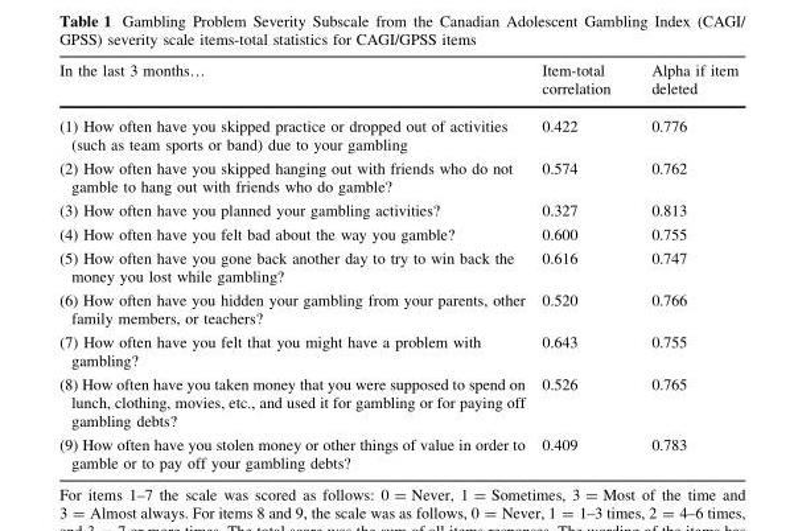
<table><thead><tr><td>In the last 3 months…</td><td>Item-total correlation</td><td>Alpha if item deleted</td></tr></thead><tbody><tr><td>(1) How often have you skipped practice or dropped out of activities (such as team sports or band) due to your gambling</td><td>0.422</td><td>0.776</td></tr><tr><td>(2) How often have you skipped hanging out with friends who do not gamble to hang out with friends who do gamble?</td><td>0.574</td><td>0.762</td></tr><tr><td>(3) How often have you planned your gambling activities?</td><td>0.327</td><td>0.813</td></tr><tr><td>(4) How often have you felt bad about the way you gamble?</td><td>0.600</td><td>0.755</td></tr><tr><td>(5) How often have you gone back another day to try to win back the money you lost while gambling?</td><td>0.616</td><td>0.747</td></tr><tr><td>(6) How often have you hidden your gambling from your parents, other family members, or teachers?</td><td>0.520</td><td>0.766</td></tr><tr><td>(7) How often have you felt that you might have a problem with gambling?</td><td>0.643</td><td>0.755</td></tr><tr><td>(8) How often have you taken money that you were supposed to spend on lunch, clothing, movies, etc., and used it for gambling or for paying off gambling debts?</td><td>0.526</td><td>0.765</td></tr><tr><td>(9) How often have you stolen money or other things of value in order to gamble or to pay off your gambling debts?</td><td>0.409</td><td>0.783</td></tr></tbody></table>